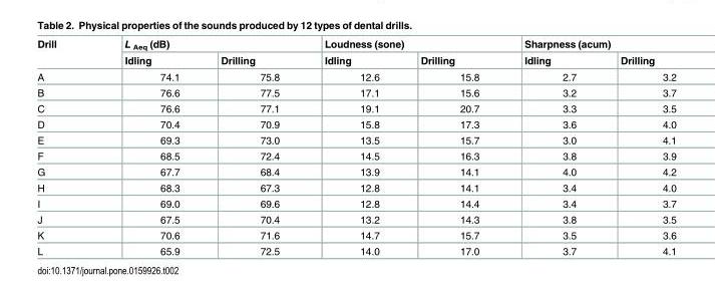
<table><thead><tr><td rowspan="2">Drill</td><td colspan="2">L <sub>Aeq</sub> (dB)</td><td colspan="2">Loudness (sone)</td><td colspan="2">Sharpness (acum)</td></tr><tr><td>Idling</td><td>Drilling</td><td>Idling</td><td>Drilling</td><td>Idling</td><td>Drilling</td></tr></thead><tbody><tr><td>A</td><td>74.1</td><td>75.8</td><td>12.6</td><td>15.8</td><td>2.7</td><td>3.2</td></tr><tr><td>B</td><td>76.6</td><td>77.5</td><td>17.1</td><td>15.6</td><td>3.2</td><td>3.7</td></tr><tr><td>C</td><td>76.6</td><td>77.1</td><td>19.1</td><td>20.7</td><td>3.3</td><td>3.5</td></tr><tr><td>D</td><td>70.4</td><td>70.9</td><td>15.8</td><td>17.3</td><td>3.6</td><td>4.0</td></tr><tr><td>E</td><td>69.3</td><td>73.0</td><td>13.5</td><td>15.7</td><td>3.0</td><td>4.1</td></tr><tr><td>F</td><td>68.5</td><td>72.4</td><td>14.5</td><td>16.3</td><td>3.8</td><td>3.9</td></tr><tr><td>G</td><td>67.7</td><td>68.4</td><td>13.9</td><td>14.1</td><td>4.0</td><td>4.2</td></tr><tr><td>H</td><td>68.3</td><td>67.3</td><td>12.8</td><td>14.1</td><td>3.4</td><td>4.0</td></tr><tr><td>I</td><td>69.0</td><td>69.6</td><td>12.8</td><td>14.4</td><td>3.4</td><td>3.7</td></tr><tr><td>J</td><td>67.5</td><td>70.4</td><td>13.2</td><td>14.3</td><td>3.8</td><td>3.5</td></tr><tr><td>K</td><td>70.6</td><td>71.6</td><td>14.7</td><td>15.7</td><td>3.5</td><td>3.6</td></tr><tr><td>L</td><td>65.9</td><td>72.5</td><td>14.0</td><td>17.0</td><td>3.7</td><td>4.1</td></tr></tbody></table>